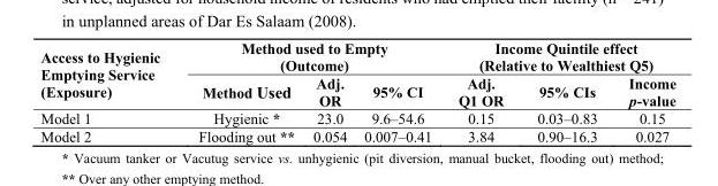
<table><thead><tr><td rowspan="2">Access to Hygienic Emptying Service (Exposure)</td><td colspan="3">Method used to Empty (Outcome)</td><td colspan="3">Income Quintile effect (Relative to Wealthiest Q5)</td></tr><tr><td>Method Used</td><td>Adj. OR</td><td>95% CI</td><td>Adj. Q1 OR</td><td>95% CIs</td><td>Income p-value</td></tr></thead><tbody><tr><td>Model 1</td><td>Hygienic *</td><td>23.0</td><td>9.6–54.6</td><td>0.15</td><td>0.03–0.83</td><td>0.15</td></tr><tr><td>Model 2</td><td>Flooding out **</td><td>0.054</td><td>0.007–0.41</td><td>3.84</td><td>0.90–16.3</td><td>0.027</td></tr></tbody></table>